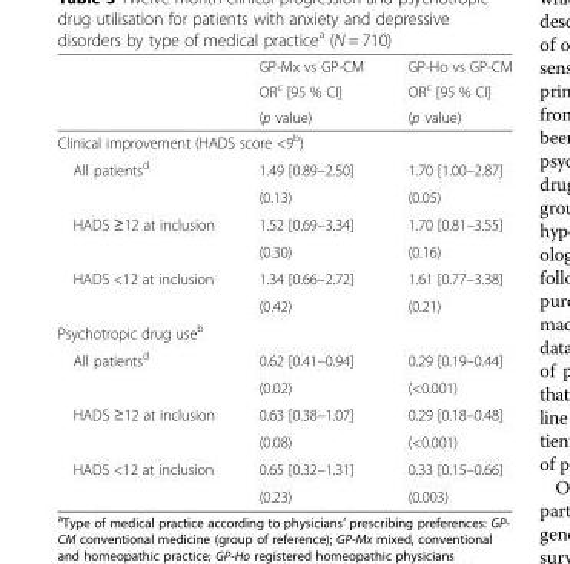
<table><thead><tr><td rowspan="3"></td><td rowspan="3">GP-Mx vs GP-CM OR<sup>c</sup> [95 % CI] (p value)</td><td rowspan="3">GP-Ho vs GP-CM OR<sup>c</sup> [95 % CI] (p value)</td></tr><tr></tr><tr></tr></thead><tbody><tr><td colspan="3">Clinical improvement (HADS score &lt;9<sup>b</sup>)</td></tr><tr><td rowspan="2">All patients<sup>d</sup></td><td>1.49 [0.89–2.50]</td><td>1.70 [1.00–2.87]</td></tr><tr><td>(0.13)</td><td>(0.05)</td></tr><tr><td rowspan="2">HADS ≥12 at inclusion</td><td>1.52 [0.69–3.34]</td><td>1.70 [0.81–3.55]</td></tr><tr><td>(0.30)</td><td>(0.16)</td></tr><tr><td rowspan="2">HADS &lt;12 at inclusion</td><td>1.34 [0.66–2.72]</td><td>1.61 [0.77–3.38]</td></tr><tr><td>(0.42)</td><td>(0.21)</td></tr><tr><td colspan="3">Psychotropic drug use<sup>b</sup></td></tr><tr><td rowspan="2">All patients<sup>d</sup></td><td>0.62 [0.41–0.94]</td><td>0.29 [0.19–0.44]</td></tr><tr><td>(0.02)</td><td>(&lt;0.001)</td></tr><tr><td rowspan="2">HADS ≥12 at inclusion</td><td>0.63 [0.38–1.07]</td><td>0.29 [0.18–0.48]</td></tr><tr><td>(0.08)</td><td>(&lt;0.001)</td></tr><tr><td rowspan="2">HADS &lt;12 at inclusion</td><td>0.65 [0.32–1.31]</td><td>0.33 [0.15–0.66]</td></tr><tr><td>(0.23)</td><td>(0.003)</td></tr></tbody></table>